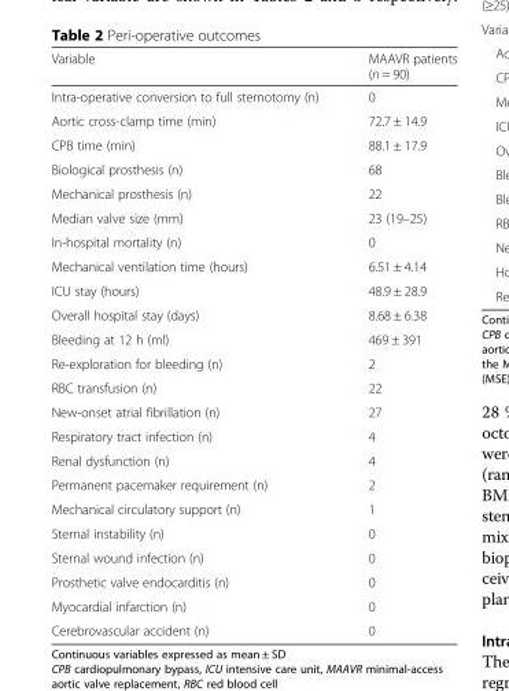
<table><thead><tr><td>Variable</td><td>MAAVR patients (n = 90)</td></tr></thead><tbody><tr><td>Intra-operative conversion to full sternotomy (n)</td><td>0</td></tr><tr><td>Aortic cross-clamp time (min)</td><td>72.7 ± 14.9</td></tr><tr><td>CPB time (min)</td><td>88.1 ± 17.9</td></tr><tr><td>Biological prosthesis (n)</td><td>68</td></tr><tr><td>Mechanical prosthesis (n)</td><td>22</td></tr><tr><td>Median valve size (mm)</td><td>23 (19–25)</td></tr><tr><td>In-hospital mortality (n)</td><td>0</td></tr><tr><td>Mechanical ventilation time (hours)</td><td>6.51 ± 4.14</td></tr><tr><td>ICU stay (hours)</td><td>48.9 ± 28.9</td></tr><tr><td>Overall hospital stay (days)</td><td>8.68 ± 6.38</td></tr><tr><td>Bleeding at 12 h (ml)</td><td>469 ± 391</td></tr><tr><td>Re-exploration for bleeding (n)</td><td>2</td></tr><tr><td>RBC transfusion (n)</td><td>22</td></tr><tr><td>New-onset atrial fibrillation (n)</td><td>27</td></tr><tr><td>Respiratory tract infection (n)</td><td>4</td></tr><tr><td>Renal dysfunction (n)</td><td>4</td></tr><tr><td>Permanent pacemaker requirement (n)</td><td>2</td></tr><tr><td>Mechanical circulatory support (n)</td><td>1</td></tr><tr><td>Sternal instability (n)</td><td>0</td></tr><tr><td>Sternal wound infection (n)</td><td>0</td></tr><tr><td>Prosthetic valve endocarditis (n)</td><td>0</td></tr><tr><td>Myocardial infarction (n)</td><td>0</td></tr><tr><td>Cerebrovascular accident (n)</td><td>0</td></tr></tbody></table>